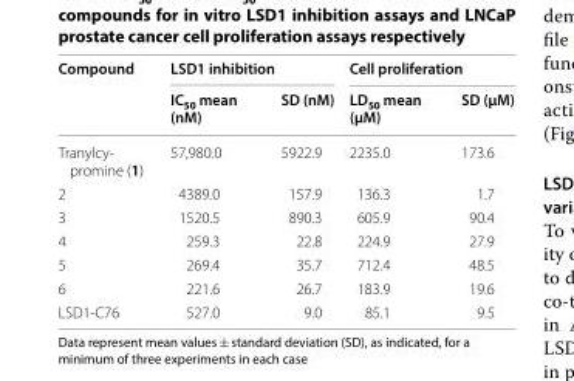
<table><thead><tr><td rowspan="2">Compound</td><td colspan="2">LSD1 inhibition</td><td colspan="2">Cell proliferation</td></tr><tr><td>IC<sub>50</sub> mean (nM)</td><td>SD (nM)</td><td>LD<sub>50</sub> mean (μM)</td><td>SD (μM)</td></tr></thead><tbody><tr><td>Tranylcy- promine (1)</td><td>57,980.0</td><td>5922.9</td><td>2235.0</td><td>173.6</td></tr><tr><td>2</td><td>4389.0</td><td>157.9</td><td>136.3</td><td>1.7</td></tr><tr><td>3</td><td>1520.5</td><td>890.3</td><td>605.9</td><td>90.4</td></tr><tr><td>4</td><td>259.3</td><td>22.8</td><td>224.9</td><td>27.9</td></tr><tr><td>5</td><td>269.4</td><td>35.7</td><td>712.4</td><td>48.5</td></tr><tr><td>6</td><td>221.6</td><td>26.7</td><td>183.9</td><td>19.6</td></tr><tr><td>LSD1-C76</td><td>527.0</td><td>9.0</td><td>85.1</td><td>9.5</td></tr></tbody></table>